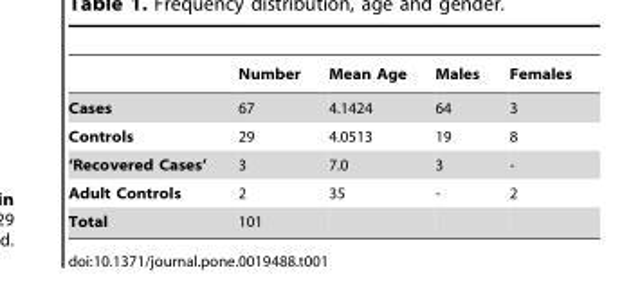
<table><thead><tr><td></td><td>Number</td><td>Mean Age</td><td>Males</td><td>Females</td></tr></thead><tbody><tr><td>Cases</td><td>67</td><td>4.1424</td><td>64</td><td>3</td></tr><tr><td>Controls</td><td>29</td><td>4.0513</td><td>19</td><td>8</td></tr><tr><td>‘Recovered Cases’</td><td>3</td><td>7.0</td><td>3</td><td>-</td></tr><tr><td>Adult Controls</td><td>2</td><td>35</td><td>-</td><td>2</td></tr><tr><td>Total</td><td>101</td><td></td><td></td><td></td></tr></tbody></table>